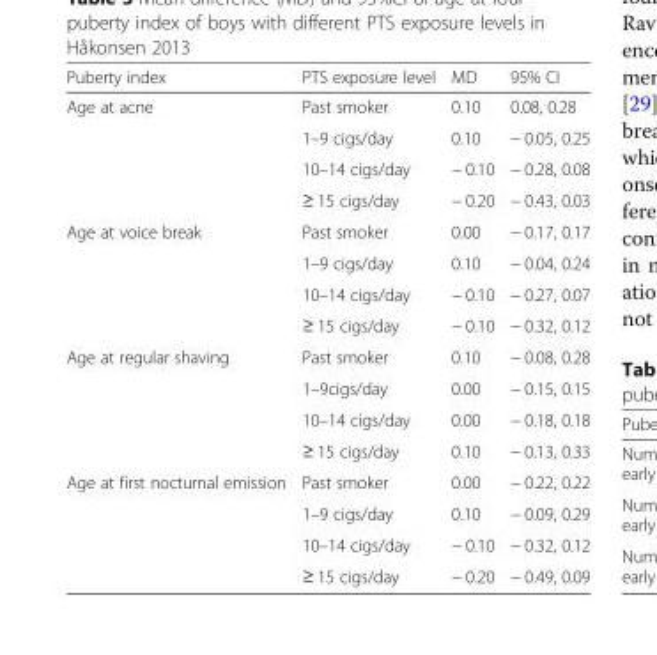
<table><thead><tr><td>Puberty index</td><td>PTS exposure level</td><td>MD</td><td>95% CI</td></tr></thead><tbody><tr><td rowspan="4">Age at acne</td><td>Past smoker</td><td>0.10</td><td>0.08, 0.28</td></tr><tr><td>1–9 cigs/day</td><td>0.10</td><td>− 0.05, 0.25</td></tr><tr><td>10–14 cigs/day</td><td>− 0.10</td><td>− 0.28, 0.08</td></tr><tr><td>≥ 15 cigs/day</td><td>− 0.20</td><td>− 0.43, 0.03</td></tr><tr><td rowspan="4">Age at voice break</td><td>Past smoker</td><td>0.00</td><td>− 0.17, 0.17</td></tr><tr><td>1–9 cigs/day</td><td>0.10</td><td>− 0.04, 0.24</td></tr><tr><td>10–14 cigs/day</td><td>− 0.10</td><td>− 0.27, 0.07</td></tr><tr><td>≥ 15 cigs/day</td><td>− 0.10</td><td>− 0.32, 0.12</td></tr><tr><td rowspan="4">Age at regular shaving</td><td>Past smoker</td><td>0.10</td><td>− 0.08, 0.28</td></tr><tr><td>1–9cigs/day</td><td>0.00</td><td>− 0.15, 0.15</td></tr><tr><td>10–14 cigs/day</td><td>0.00</td><td>− 0.18, 0.18</td></tr><tr><td>≥ 15 cigs/day</td><td>0.10</td><td>− 0.13, 0.33</td></tr><tr><td rowspan="4">Age at first nocturnal emission</td><td>Past smoker</td><td>0.00</td><td>− 0.22, 0.22</td></tr><tr><td>1–9 cigs/day</td><td>0.10</td><td>− 0.09, 0.29</td></tr><tr><td>10–14 cigs/day</td><td>− 0.10</td><td>− 0.32, 0.12</td></tr><tr><td>≥ 15 cigs/day</td><td>− 0.20</td><td>− 0.49, 0.09</td></tr></tbody></table>